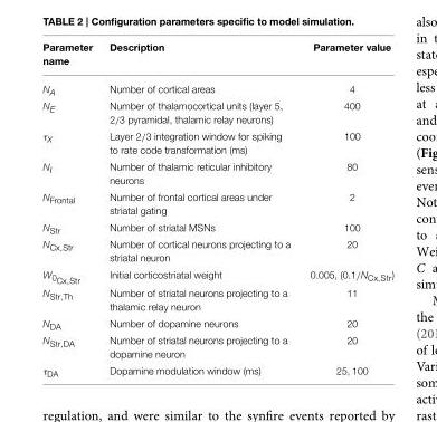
<table><thead><tr><td>Parameter name</td><td>Description</td><td>Parameter value</td></tr></thead><tbody><tr><td>N<sub>A</sub></td><td>Number of cortical areas</td><td>4</td></tr><tr><td>N<sub>E</sub></td><td>Number of thalamocortical units (layer 5, 2/3 pyramidal, thalamic relay neurons)</td><td>400</td></tr><tr><td>τ<sub>X</sub></td><td>Layer 2/3 integration window for spiking to rate code transformation (ms)</td><td>100</td></tr><tr><td>N<sub>I</sub></td><td>Number of thalamic reticular inhibitory neurons</td><td>80</td></tr><tr><td>N<sub>Frontal</sub></td><td>Number of frontal cortical areas under striatal gating</td><td>2</td></tr><tr><td>N<sub>Str</sub></td><td>Number of striatal MSNs</td><td>100</td></tr><tr><td>N<sub>Cx,Str</sub></td><td>Number of cortical neurons projecting to a striatal neuron</td><td>20</td></tr><tr><td>W0Cx,Str</td><td>Initial corticostriatal weight</td><td>0.005, (0.1/NCx,Str)</td></tr><tr><td>N<sub>Str,Th</sub></td><td>Number of striatal neurons projecting to a thalamic relay neuron</td><td>11</td></tr><tr><td>N<sub>DA</sub></td><td>Number of dopamine neurons</td><td>20</td></tr><tr><td>N<sub>Str,DA</sub></td><td>Number of striatal neurons projecting to a dopamine neuron</td><td>20</td></tr><tr><td>τ<sub>DA</sub></td><td>Dopamine modulation window (ms)</td><td>25, 100</td></tr></tbody></table>